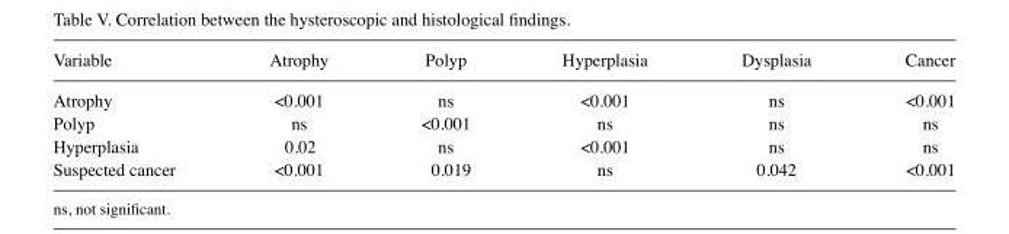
<table><thead><tr><td>Variable</td><td>Atrophy</td><td>Polyp</td><td>Hyperplasia</td><td>Dysplasia</td><td>Cancer</td></tr></thead><tbody><tr><td>Atrophy</td><td>&lt;0.001</td><td>ns</td><td>&lt;0.001</td><td>ns</td><td>&lt;0.001</td></tr><tr><td>Polyp</td><td>ns</td><td>&lt;0.001</td><td>ns</td><td>ns</td><td>ns</td></tr><tr><td>Hyperplasia</td><td>0.02</td><td>ns</td><td>&lt;0.001</td><td>ns</td><td>ns</td></tr><tr><td>Suspected cancer</td><td>&lt;0.001</td><td>0.019</td><td>ns</td><td>0.042</td><td>&lt;0.001</td></tr></tbody></table>